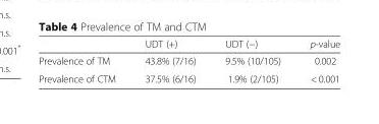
<table><thead><tr><td></td><td>UDT (+)</td><td>UDT (−)</td><td>p-value</td></tr></thead><tbody><tr><td>Prevalence of TM</td><td>43.8% (7/16)</td><td>9.5% (10/105)</td><td>0.002</td></tr><tr><td>Prevalence of CTM</td><td>37.5% (6/16)</td><td>1.9% (2/105)</td><td>&lt; 0.001</td></tr></tbody></table>